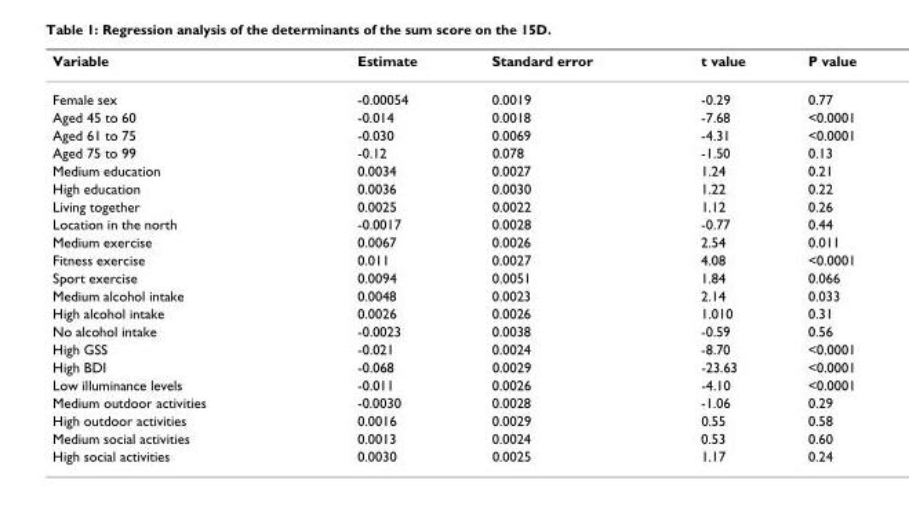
<table><thead><tr><td>Variable</td><td>Estimate</td><td>Standard error</td><td>t value</td><td>P value</td></tr></thead><tbody><tr><td>Female sex</td><td>-0.00054</td><td>0.0019</td><td>-0.29</td><td>0.77</td></tr><tr><td>Aged 45 to 60</td><td>-0.014</td><td>0.0018</td><td>-7.68</td><td>&lt;0.0001</td></tr><tr><td>Aged 61 to 75</td><td>-0.030</td><td>0.0069</td><td>-4.31</td><td>&lt;0.0001</td></tr><tr><td>Aged 75 to 99</td><td>-0.12</td><td>0.078</td><td>-1.50</td><td>0.13</td></tr><tr><td>Medium education</td><td>0.0034</td><td>0.0027</td><td>1.24</td><td>0.21</td></tr><tr><td>High education</td><td>0.0036</td><td>0.0030</td><td>1.22</td><td>0.22</td></tr><tr><td>Living together</td><td>0.0025</td><td>0.0022</td><td>1.12</td><td>0.26</td></tr><tr><td>Location in the north</td><td>-0.0017</td><td>0.0028</td><td>-0.77</td><td>0.44</td></tr><tr><td>Medium exercise</td><td>0.0067</td><td>0.0026</td><td>2.54</td><td>0.011</td></tr><tr><td>Fitness exercise</td><td>0.011</td><td>0.0027</td><td>4.08</td><td>&lt;0.0001</td></tr><tr><td>Sport exercise</td><td>0.0094</td><td>0.0051</td><td>1.84</td><td>0.066</td></tr><tr><td>Medium alcohol intake</td><td>0.0048</td><td>0.0023</td><td>2.14</td><td>0.033</td></tr><tr><td>High alcohol intake</td><td>0.0026</td><td>0.0026</td><td>1.010</td><td>0.31</td></tr><tr><td>No alcohol intake</td><td>-0.0023</td><td>0.0038</td><td>-0.59</td><td>0.56</td></tr><tr><td>High GSS</td><td>-0.021</td><td>0.0024</td><td>-8.70</td><td>&lt;0.0001</td></tr><tr><td>High BDI</td><td>-0.068</td><td>0.0029</td><td>-23.63</td><td>&lt;0.0001</td></tr><tr><td>Low illuminance levels</td><td>-0.011</td><td>0.0026</td><td>-4.10</td><td>&lt;0.0001</td></tr><tr><td>Medium outdoor activities</td><td>-0.0030</td><td>0.0028</td><td>-1.06</td><td>0.29</td></tr><tr><td>High outdoor activities</td><td>0.0016</td><td>0.0029</td><td>0.55</td><td>0.58</td></tr><tr><td>Medium social activities</td><td>0.0013</td><td>0.0024</td><td>0.53</td><td>0.60</td></tr><tr><td>High social activities</td><td>0.0030</td><td>0.0025</td><td>1.17</td><td>0.24</td></tr></tbody></table>